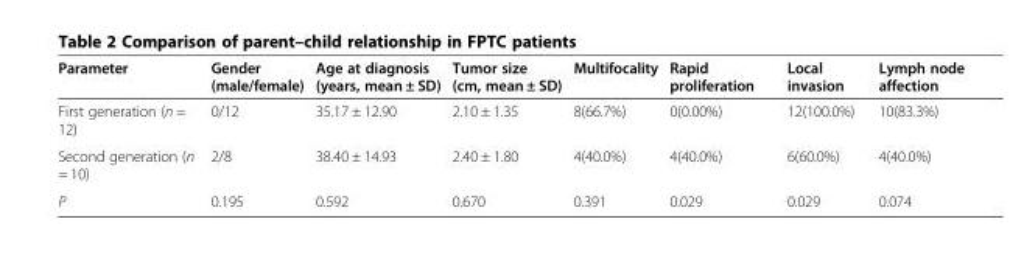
<table><thead><tr><td>Parameter</td><td>Gender (male/female)</td><td>Age at diagnosis (years, mean ± SD)</td><td>Tumor size (cm, mean ± SD)</td><td>Multifocality</td><td>Rapid proliferation</td><td>Local invasion</td><td>Lymph node affection</td></tr></thead><tbody><tr><td>First generation (n = 12)</td><td>0/12</td><td>35.17 ± 12.90</td><td>2.10 ± 1.35</td><td>8(66.7%)</td><td>0(0.00%)</td><td>12(100.0%)</td><td>10(83.3%)</td></tr><tr><td>Second generation (n = 10)</td><td>2/8</td><td>38.40 ± 14.93</td><td>2.40 ± 1.80</td><td>4(40.0%)</td><td>4(40.0%)</td><td>6(60.0%)</td><td>4(40.0%)</td></tr><tr><td>P</td><td>0.195</td><td>0.592</td><td>0.670</td><td>0.391</td><td>0.029</td><td>0.029</td><td>0.074</td></tr></tbody></table>